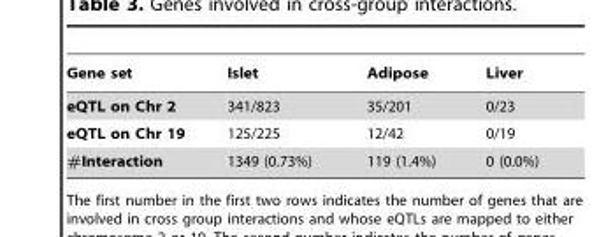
<table><thead><tr><td>Gene set</td><td>Islet</td><td>Adipose</td><td>Liver</td></tr></thead><tbody><tr><td>eQTL on Chr 2</td><td>341/823</td><td>35/201</td><td>0/23</td></tr><tr><td>eQTL on Chr 19</td><td>125/225</td><td>12/42</td><td>0/19</td></tr><tr><td>#Interaction</td><td>1349 (0.73%)</td><td>119 (1.4%)</td><td>0 (0.0%)</td></tr></tbody></table>